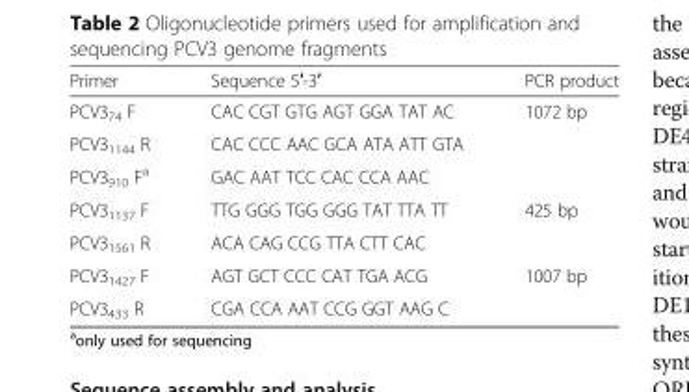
<table><thead><tr><td>Primer</td><td>Sequence 5′-3′</td><td>PCR product</td></tr></thead><tbody><tr><td>PCV3<sub>74</sub> F</td><td>CAC CGT GTG AGT GGA TAT AC</td><td rowspan="2">1072 bp</td></tr><tr><td>PCV3<sub>1144</sub> R</td><td>CAC CCC AAC GCA ATA ATT GTA</td></tr><tr><td>PCV3<sub>910</sub> F<sup>a</sup></td><td>GAC AAT TCC CAC CCA AAC</td><td></td></tr><tr><td>PCV3<sub>1137</sub> F</td><td>TTG GGG TGG GGG TAT TTA TT</td><td rowspan="2">425 bp</td></tr><tr><td>PCV3<sub>1561</sub> R</td><td>ACA CAG CCG TTA CTT CAC</td></tr><tr><td>PCV3<sub>1427</sub> F</td><td>AGT GCT CCC CAT TGA ACG</td><td rowspan="2">1007 bp</td></tr><tr><td>PCV3<sub>433</sub> R</td><td>CGA CCA AAT CCG GGT AAG C</td></tr></tbody></table>